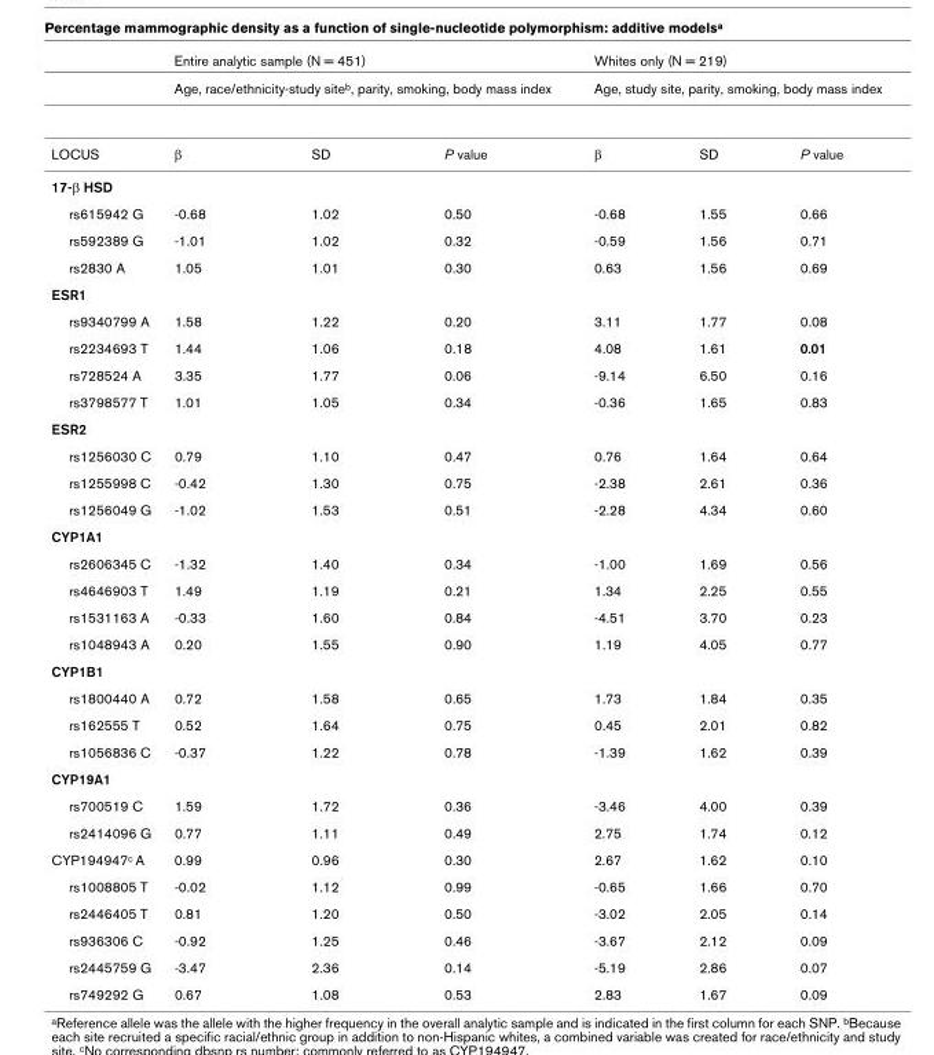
<table><thead><tr><td rowspan="3">LOCUS</td><td rowspan="2" colspan="3">Entire analytic sample (N = 451) Age, race/ethnicity-study siteb, parity, smoking, body mass index</td><td rowspan="2" colspan="3">Whites only (N = 219) Age, study site, parity, smoking, body mass index</td></tr><tr></tr><tr><td>β</td><td>SD</td><td>P value</td><td>β</td><td>SD</td><td>P value</td></tr></thead><tbody><tr><td colspan="7">17-β HSD</td></tr><tr><td>rs615942 G</td><td>-0.68</td><td>1.02</td><td>0.50</td><td>-0.68</td><td>1.55</td><td>0.66</td></tr><tr><td>rs592389 G</td><td>-1.01</td><td>1.02</td><td>0.32</td><td>-0.59</td><td>1.56</td><td>0.71</td></tr><tr><td>rs2830 A</td><td>1.05</td><td>1.01</td><td>0.30</td><td>0.63</td><td>1.56</td><td>0.69</td></tr><tr><td colspan="7">ESR1</td></tr><tr><td>rs9340799 A</td><td>1.58</td><td>1.22</td><td>0.20</td><td>3.11</td><td>1.77</td><td>0.08</td></tr><tr><td>rs2234693 T</td><td>1.44</td><td>1.06</td><td>0.18</td><td>4.08</td><td>1.61</td><td>0.01</td></tr><tr><td>rs728524 A</td><td>3.35</td><td>1.77</td><td>0.06</td><td>-9.14</td><td>6.50</td><td>0.16</td></tr><tr><td>rs3798577 T</td><td>1.01</td><td>1.05</td><td>0.34</td><td>-0.36</td><td>1.65</td><td>0.83</td></tr><tr><td colspan="7">ESR2</td></tr><tr><td>rs1256030 C</td><td>0.79</td><td>1.10</td><td>0.47</td><td>0.76</td><td>1.64</td><td>0.64</td></tr><tr><td>rs1255998 C</td><td>-0.42</td><td>1.30</td><td>0.75</td><td>-2.38</td><td>2.61</td><td>0.36</td></tr><tr><td>rs1256049 G</td><td>-1.02</td><td>1.53</td><td>0.51</td><td>-2.28</td><td>4.34</td><td>0.60</td></tr><tr><td colspan="7">CYP1A1</td></tr><tr><td>rs2606345 C</td><td>-1.32</td><td>1.40</td><td>0.34</td><td>-1.00</td><td>1.69</td><td>0.56</td></tr><tr><td>rs4646903 T</td><td>1.49</td><td>1.19</td><td>0.21</td><td>1.34</td><td>2.25</td><td>0.55</td></tr><tr><td>rs1531163 A</td><td>-0.33</td><td>1.60</td><td>0.84</td><td>-4.51</td><td>3.70</td><td>0.23</td></tr><tr><td>rs1048943 A</td><td>0.20</td><td>1.55</td><td>0.90</td><td>1.19</td><td>4.05</td><td>0.77</td></tr><tr><td colspan="7">CYP1B1</td></tr><tr><td>rs1800440 A</td><td>0.72</td><td>1.58</td><td>0.65</td><td>1.73</td><td>1.84</td><td>0.35</td></tr><tr><td>rs162555 T</td><td>0.52</td><td>1.64</td><td>0.75</td><td>0.45</td><td>2.01</td><td>0.82</td></tr><tr><td>rs1056836 C</td><td>-0.37</td><td>1.22</td><td>0.78</td><td>-1.39</td><td>1.62</td><td>0.39</td></tr><tr><td colspan="7">CYP19A1</td></tr><tr><td>rs700519 C</td><td>1.59</td><td>1.72</td><td>0.36</td><td>-3.46</td><td>4.00</td><td>0.39</td></tr><tr><td>rs2414096 G</td><td>0.77</td><td>1.11</td><td>0.49</td><td>2.75</td><td>1.74</td><td>0.12</td></tr><tr><td>CYP194947<sup>c</sup> A</td><td>0.99</td><td>0.96</td><td>0.30</td><td>2.67</td><td>1.62</td><td>0.10</td></tr><tr><td>rs1008805 T</td><td>-0.02</td><td>1.12</td><td>0.99</td><td>-0.65</td><td>1.66</td><td>0.70</td></tr><tr><td>rs2446405 T</td><td>0.81</td><td>1.20</td><td>0.50</td><td>-3.02</td><td>2.05</td><td>0.14</td></tr><tr><td>rs936306 C</td><td>-0.92</td><td>1.25</td><td>0.46</td><td>-3.67</td><td>2.12</td><td>0.09</td></tr><tr><td>rs2445759 G</td><td>-3.47</td><td>2.36</td><td>0.14</td><td>-5.19</td><td>2.86</td><td>0.07</td></tr><tr><td>rs749292 G</td><td>0.67</td><td>1.08</td><td>0.53</td><td>2.83</td><td>1.67</td><td>0.09</td></tr></tbody></table>